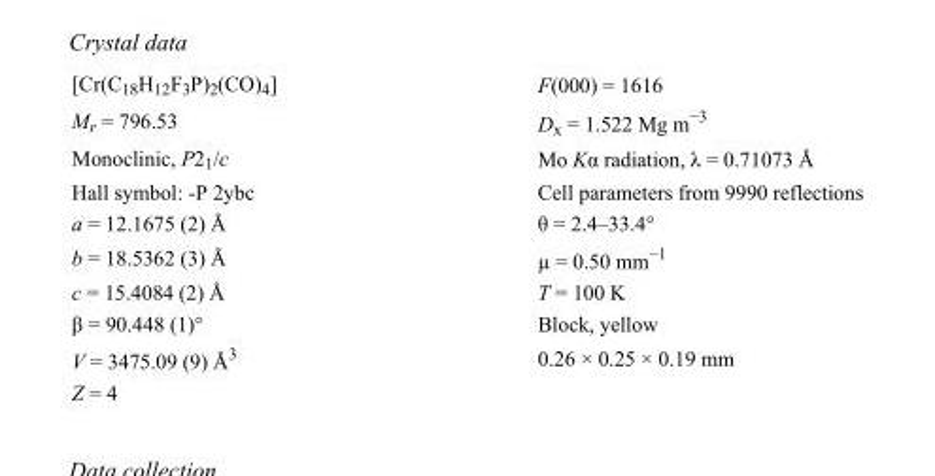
<table><tbody><tr><td>[Cr(C<sub>18</sub>H<sub>12</sub>F<sub>3</sub>P)<sub>2</sub>(CO)<sub>4</sub>]</td><td>F(000) = 1616</td></tr><tr><td>M<sub>r</sub> = 796.53</td><td>D<sub>x</sub> = 1.522 Mg m<sup>−3</sup></td></tr><tr><td>Monoclinic, P2<sub>1</sub>/c</td><td>Mo Kα radiation, λ = 0.71073 Å</td></tr><tr><td>Hall symbol: -P 2ybc</td><td>Cell parameters from 9990 reflections</td></tr><tr><td>a = 12.1675 (2) Å</td><td>θ = 2.4–33.4°</td></tr><tr><td>b = 18.5362 (3) Å</td><td>µ = 0.50 mm<sup>−1</sup></td></tr><tr><td>c = 15.4084 (2) Å</td><td>T = 100 K</td></tr><tr><td>β = 90.448 (1)°</td><td>Block, yellow</td></tr><tr><td>V = 3475.09 (9) Å<sup>3</sup></td><td>0.26 × 0.25 × 0.19 mm</td></tr><tr><td>Z = 4</td><td></td></tr></tbody></table>